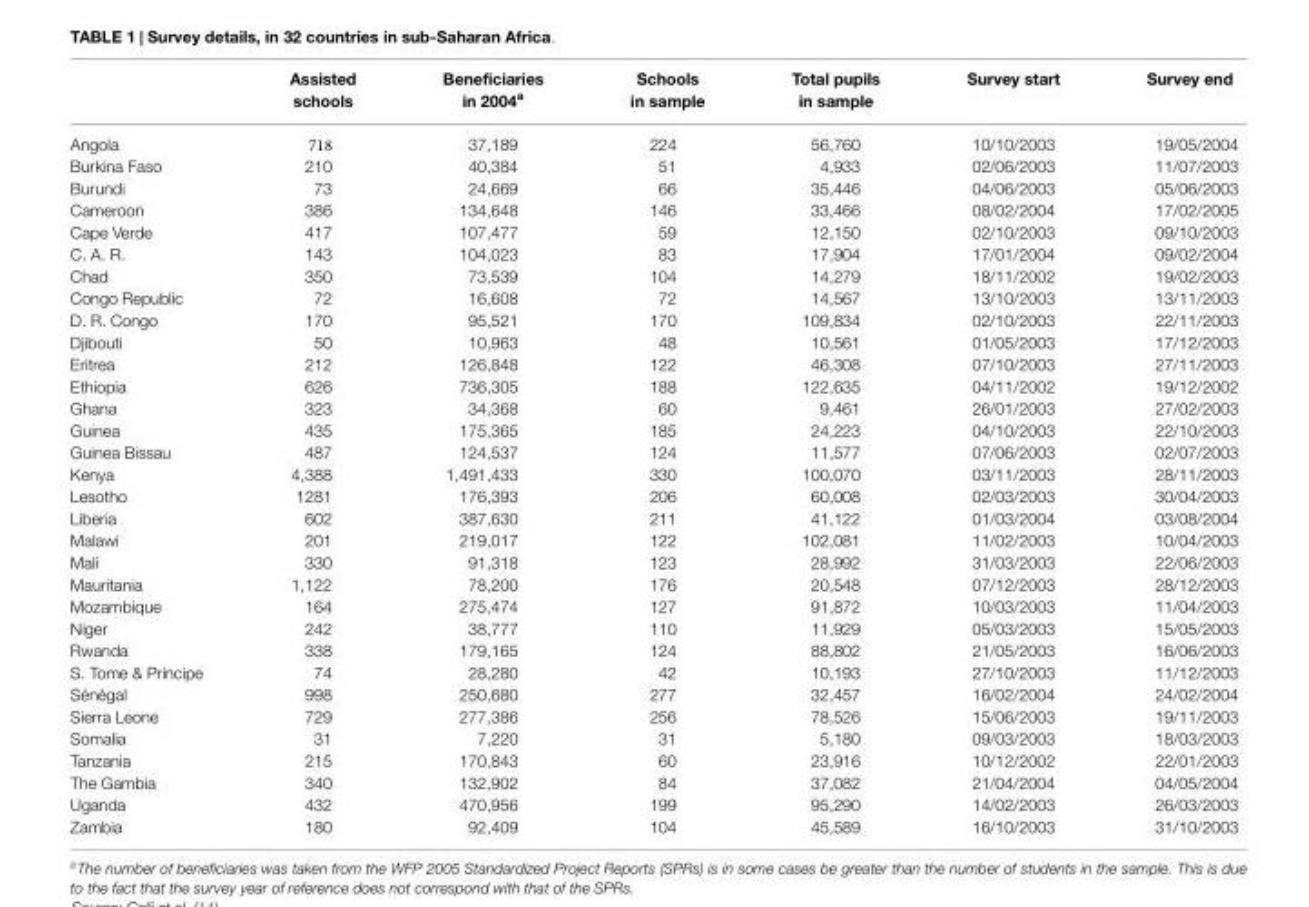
<table><thead><tr><td></td><td>Assisted schools</td><td>Beneficiaries in 2004<sup>a</sup></td><td>Schools in sample</td><td>Total pupils in sample</td><td>Survey start</td><td>Survey end</td></tr></thead><tbody><tr><td>Angola</td><td>718</td><td>37,189</td><td>224</td><td>56,760</td><td>10/10/2003</td><td>19/05/2004</td></tr><tr><td>Burkina Faso</td><td>210</td><td>40,384</td><td>51</td><td>4,933</td><td>02/06/2003</td><td>11/07/2003</td></tr><tr><td>Burundi</td><td>73</td><td>24,669</td><td>66</td><td>35,446</td><td>04/06/2003</td><td>05/06/2003</td></tr><tr><td>Cameroon</td><td>386</td><td>134,648</td><td>146</td><td>33,466</td><td>08/02/2004</td><td>17/02/2005</td></tr><tr><td>Cape Verde</td><td>417</td><td>107,477</td><td>59</td><td>12,150</td><td>02/10/2003</td><td>09/10/2003</td></tr><tr><td>C. A. R.</td><td>143</td><td>104,023</td><td>83</td><td>17,904</td><td>17/01/2004</td><td>09/02/2004</td></tr><tr><td>Chad</td><td>350</td><td>73,539</td><td>104</td><td>14,279</td><td>18/11/2002</td><td>19/02/2003</td></tr><tr><td>Congo Republic</td><td>72</td><td>16,608</td><td>72</td><td>14,567</td><td>13/10/2003</td><td>13/11/2003</td></tr><tr><td>D. R. Congo</td><td>170</td><td>95,521</td><td>170</td><td>109,834</td><td>02/10/2003</td><td>22/11/2003</td></tr><tr><td>Djibouti</td><td>50</td><td>10,963</td><td>48</td><td>10,561</td><td>01/05/2003</td><td>17/12/2003</td></tr><tr><td>Eritrea</td><td>212</td><td>126,848</td><td>122</td><td>46,308</td><td>07/10/2003</td><td>27/11/2003</td></tr><tr><td>Ethiopia</td><td>626</td><td>736,305</td><td>188</td><td>122,635</td><td>04/11/2002</td><td>19/12/2002</td></tr><tr><td>Ghana</td><td>323</td><td>34,368</td><td>60</td><td>9,461</td><td>26/01/2003</td><td>27/02/2003</td></tr><tr><td>Guinea</td><td>435</td><td>175,365</td><td>185</td><td>24,223</td><td>04/10/2003</td><td>22/10/2003</td></tr><tr><td>Guinea Bissau</td><td>487</td><td>124,537</td><td>124</td><td>11,577</td><td>07/06/2003</td><td>02/07/2003</td></tr><tr><td>Kenya</td><td>4,388</td><td>1,491,433</td><td>330</td><td>100,070</td><td>03/11/2003</td><td>28/11/2003</td></tr><tr><td>Lesotho</td><td>1281</td><td>176,393</td><td>206</td><td>60,008</td><td>02/03/2003</td><td>30/04/2003</td></tr><tr><td>Liberia</td><td>602</td><td>387,630</td><td>211</td><td>41,122</td><td>01/03/2004</td><td>03/08/2004</td></tr><tr><td>Malawi</td><td>201</td><td>219,017</td><td>122</td><td>102,081</td><td>11/02/2003</td><td>10/04/2003</td></tr><tr><td>Mali</td><td>330</td><td>91,318</td><td>123</td><td>28,992</td><td>31/03/2003</td><td>22/06/2003</td></tr><tr><td>Mauritania</td><td>1,122</td><td>78,200</td><td>176</td><td>20,548</td><td>07/12/2003</td><td>28/12/2003</td></tr><tr><td>Mozambique</td><td>164</td><td>275,474</td><td>127</td><td>91,872</td><td>10/03/2003</td><td>11/04/2003</td></tr><tr><td>Niger</td><td>242</td><td>38,777</td><td>110</td><td>11,929</td><td>05/03/2003</td><td>15/05/2003</td></tr><tr><td>Rwanda</td><td>338</td><td>179,165</td><td>124</td><td>88,802</td><td>21/05/2003</td><td>16/06/2003</td></tr><tr><td>S. Tome &amp; Principe</td><td>74</td><td>28,280</td><td>42</td><td>10,193</td><td>27/10/2003</td><td>11/12/2003</td></tr><tr><td>Sénégal</td><td>998</td><td>250,680</td><td>277</td><td>32,457</td><td>16/02/2004</td><td>24/02/2004</td></tr><tr><td>Sierra Leone</td><td>729</td><td>277,386</td><td>256</td><td>78,526</td><td>15/06/2003</td><td>19/11/2003</td></tr><tr><td>Somalia</td><td>31</td><td>7,220</td><td>31</td><td>5,180</td><td>09/03/2003</td><td>18/03/2003</td></tr><tr><td>Tanzania</td><td>215</td><td>170,843</td><td>60</td><td>23,916</td><td>10/12/2002</td><td>22/01/2003</td></tr><tr><td>The Gambia</td><td>340</td><td>132,902</td><td>84</td><td>37,082</td><td>21/04/2004</td><td>04/05/2004</td></tr><tr><td>Uganda</td><td>432</td><td>470,956</td><td>199</td><td>95,290</td><td>14/02/2003</td><td>26/03/2003</td></tr><tr><td>Zambia</td><td>180</td><td>92,409</td><td>104</td><td>45,589</td><td>16/10/2003</td><td>31/10/2003</td></tr></tbody></table>